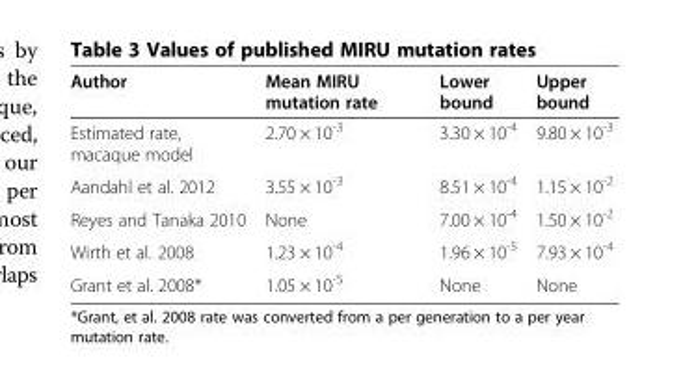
<table><thead><tr><td>Author</td><td>Mean MIRU mutation rate</td><td>Lower bound</td><td>Upper bound</td></tr></thead><tbody><tr><td>Estimated rate, macaque model</td><td>2.70 × 10<sup>-3</sup></td><td>3.30 × 10<sup>-4</sup></td><td>9.80 × 10<sup>-3</sup></td></tr><tr><td>Aandahl et al. 2012</td><td>3.55 × 10<sup>-3</sup></td><td>8.51 × 10<sup>-4</sup></td><td>1.15 × 10<sup>-2</sup></td></tr><tr><td>Reyes and Tanaka 2010</td><td>None</td><td>7.00 × 10<sup>-4</sup></td><td>1.50 × 10<sup>-2</sup></td></tr><tr><td>Wirth et al. 2008</td><td>1.23 × 10<sup>-4</sup></td><td>1.96 × 10<sup>-5</sup></td><td>7.93 × 10<sup>-4</sup></td></tr><tr><td>Grant et al. 2008*</td><td>1.05 × 10<sup>-5</sup></td><td>None</td><td>None</td></tr></tbody></table>